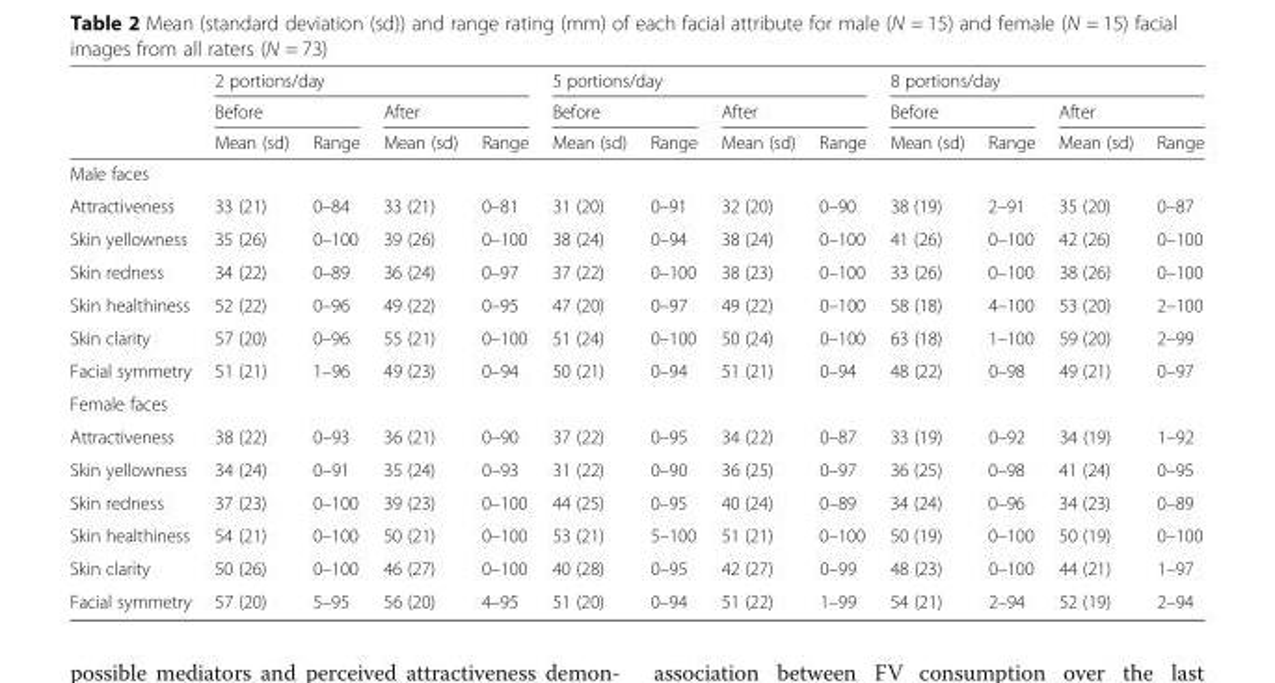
<table><thead><tr><td rowspan="3"></td><td colspan="4">2 portions/day</td><td colspan="4">5 portions/day</td><td colspan="4">8 portions/day</td></tr><tr><td colspan="2">Before</td><td colspan="2">After</td><td colspan="2">Before</td><td colspan="2">After</td><td colspan="2">Before</td><td colspan="2">After</td></tr><tr><td>Mean (sd)</td><td>Range</td><td>Mean (sd)</td><td>Range</td><td>Mean (sd)</td><td>Range</td><td>Mean (sd)</td><td>Range</td><td>Mean (sd)</td><td>Range</td><td>Mean (sd)</td><td>Range</td></tr></thead><tbody><tr><td colspan="13">Male faces</td></tr><tr><td>Attractiveness</td><td>33 (21)</td><td>0–84</td><td>33 (21)</td><td>0–81</td><td>31 (20)</td><td>0–91</td><td>32 (20)</td><td>0–90</td><td>38 (19)</td><td>2–91</td><td>35 (20)</td><td>0–87</td></tr><tr><td>Skin yellowness</td><td>35 (26)</td><td>0–100</td><td>39 (26)</td><td>0–100</td><td>38 (24)</td><td>0–94</td><td>38 (24)</td><td>0–100</td><td>41 (26)</td><td>0–100</td><td>42 (26)</td><td>0–100</td></tr><tr><td>Skin redness</td><td>34 (22)</td><td>0–89</td><td>36 (24)</td><td>0–97</td><td>37 (22)</td><td>0–100</td><td>38 (23)</td><td>0–100</td><td>33 (26)</td><td>0–100</td><td>38 (26)</td><td>0–100</td></tr><tr><td>Skin healthiness</td><td>52 (22)</td><td>0–96</td><td>49 (22)</td><td>0–95</td><td>47 (20)</td><td>0–97</td><td>49 (22)</td><td>0–100</td><td>58 (18)</td><td>4–100</td><td>53 (20)</td><td>2–100</td></tr><tr><td>Skin clarity</td><td>57 (20)</td><td>0–96</td><td>55 (21)</td><td>0–100</td><td>51 (24)</td><td>0–100</td><td>50 (24)</td><td>0–100</td><td>63 (18)</td><td>1–100</td><td>59 (20)</td><td>2–99</td></tr><tr><td>Facial symmetry</td><td>51 (21)</td><td>1–96</td><td>49 (23)</td><td>0–94</td><td>50 (21)</td><td>0–94</td><td>51 (21)</td><td>0–94</td><td>48 (22)</td><td>0–98</td><td>49 (21)</td><td>0–97</td></tr><tr><td colspan="13">Female faces</td></tr><tr><td>Attractiveness</td><td>38 (22)</td><td>0–93</td><td>36 (21)</td><td>0–90</td><td>37 (22)</td><td>0–95</td><td>34 (22)</td><td>0–87</td><td>33 (19)</td><td>0–92</td><td>34 (19)</td><td>1–92</td></tr><tr><td>Skin yellowness</td><td>34 (24)</td><td>0–91</td><td>35 (24)</td><td>0–93</td><td>31 (22)</td><td>0–90</td><td>36 (25)</td><td>0–97</td><td>36 (25)</td><td>0–98</td><td>41 (24)</td><td>0–95</td></tr><tr><td>Skin redness</td><td>37 (23)</td><td>0–100</td><td>39 (23)</td><td>0–100</td><td>44 (25)</td><td>0–95</td><td>40 (24)</td><td>0–89</td><td>34 (24)</td><td>0–96</td><td>34 (23)</td><td>0–89</td></tr><tr><td>Skin healthiness</td><td>54 (21)</td><td>0–100</td><td>50 (21)</td><td>0–100</td><td>53 (21)</td><td>5–100</td><td>51 (21)</td><td>0–100</td><td>50 (19)</td><td>0–100</td><td>50 (19)</td><td>0–100</td></tr><tr><td>Skin clarity</td><td>50 (26)</td><td>0–100</td><td>46 (27)</td><td>0–100</td><td>40 (28)</td><td>0–95</td><td>42 (27)</td><td>0–99</td><td>48 (23)</td><td>0–100</td><td>44 (21)</td><td>1–97</td></tr><tr><td>Facial symmetry</td><td>57 (20)</td><td>5–95</td><td>56 (20)</td><td>4–95</td><td>51 (20)</td><td>0–94</td><td>51 (22)</td><td>1–99</td><td>54 (21)</td><td>2–94</td><td>52 (19)</td><td>2–94</td></tr></tbody></table>